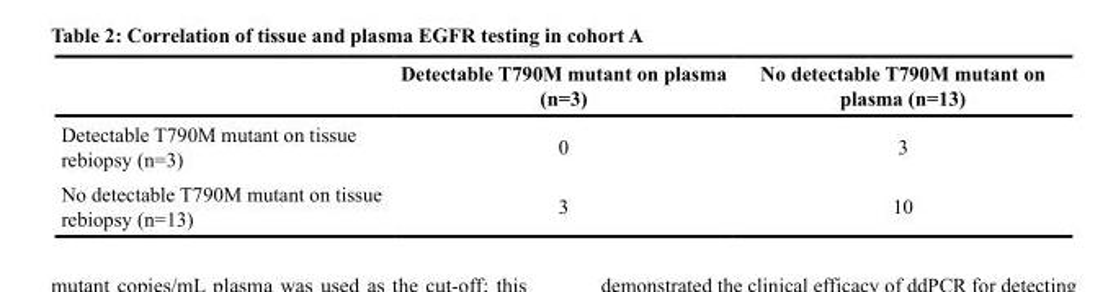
<table><thead><tr><td></td><td>Detectable T790M mutant on plasma (n=3)</td><td>No detectable T790M mutant on plasma (n=13)</td></tr></thead><tbody><tr><td>Detectable T790M mutant on tissue rebiopsy (n=3)</td><td>0</td><td>3</td></tr><tr><td>No detectable T790M mutant on tissue rebiopsy (n=13)</td><td>3</td><td>10</td></tr></tbody></table>